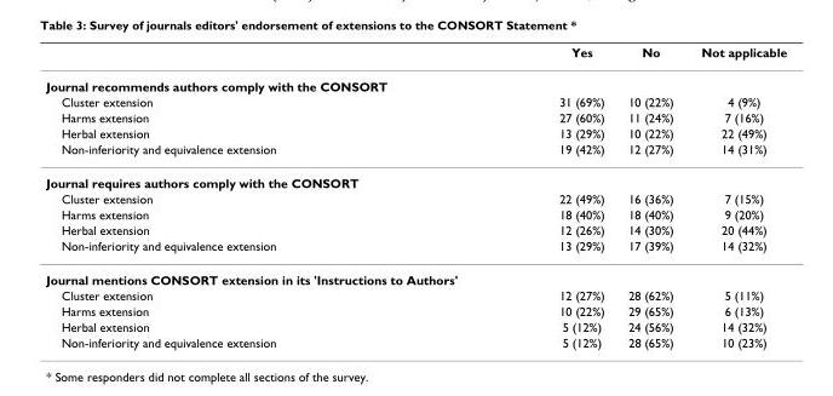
<table><thead><tr><td></td><td>Yes</td><td>No</td><td>Not applicable</td></tr></thead><tbody><tr><td colspan="4">Journal recommends authors comply with the CONSORT</td></tr><tr><td>Cluster extension</td><td>31 (69%)</td><td>10 (22%)</td><td>4 (9%)</td></tr><tr><td>Harms extension</td><td>27 (60%)</td><td>11 (24%)</td><td>7 (16%)</td></tr><tr><td>Herbal extension</td><td>13 (29%)</td><td>10 (22%)</td><td>22 (49%)</td></tr><tr><td>Non-inferiority and equivalence extension</td><td>19 (42%)</td><td>12 (27%)</td><td>14 (31%)</td></tr><tr><td colspan="4">Journal requires authors comply with the CONSORT</td></tr><tr><td>Cluster extension</td><td>22 (49%)</td><td>16 (36%)</td><td>7 (15%)</td></tr><tr><td>Harms extension</td><td>18 (40%)</td><td>18 (40%)</td><td>9 (20%)</td></tr><tr><td>Herbal extension</td><td>12 (26%)</td><td>14 (30%)</td><td>20 (44%)</td></tr><tr><td>Non-inferiority and equivalence extension</td><td>13 (29%)</td><td>17 (39%)</td><td>14 (32%)</td></tr><tr><td colspan="4">Journal mentions CONSORT extension in its &#x27;Instructions to Authors&#x27;</td></tr><tr><td>Cluster extension</td><td>12 (27%)</td><td>28 (62%)</td><td>5 (11%)</td></tr><tr><td>Harms extension</td><td>10 (22%)</td><td>29 (65%)</td><td>6 (13%)</td></tr><tr><td>Herbal extension</td><td>5 (12%)</td><td>24 (56%)</td><td>14 (32%)</td></tr><tr><td>Non-inferiority and equivalence extension</td><td>5 (12%)</td><td>28 (65%)</td><td>10 (23%)</td></tr></tbody></table>